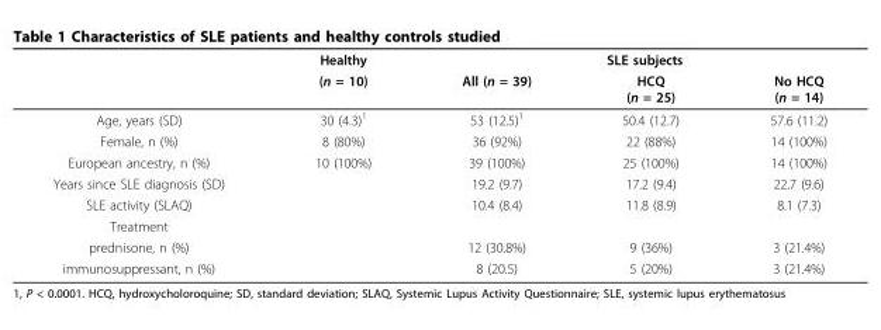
<table><thead><tr><td rowspan="2"></td><td rowspan="2">Healthy (n = 10)</td><td colspan="3">SLE subjects</td></tr><tr><td>All (n = 39)</td><td>HCQ (n = 25)</td><td>No HCQ (n = 14)</td></tr></thead><tbody><tr><td>Age, years (SD)</td><td>30 (4.3)<sup>1</sup></td><td>53 (12.5)<sup>1</sup></td><td>50.4 (12.7)</td><td>57.6 (11.2)</td></tr><tr><td>Female, n (%)</td><td>8 (80%)</td><td>36 (92%)</td><td>22 (88%)</td><td>14 (100%)</td></tr><tr><td>European ancestry, n (%)</td><td>10 (100%)</td><td>39 (100%)</td><td>25 (100%)</td><td>14 (100%)</td></tr><tr><td>Years since SLE diagnosis (SD)</td><td></td><td>19.2 (9.7)</td><td>17.2 (9.4)</td><td>22.7 (9.6)</td></tr><tr><td>SLE activity (SLAQ)</td><td></td><td>10.4 (8.4)</td><td>11.8 (8.9)</td><td>8.1 (7.3)</td></tr><tr><td colspan="5">Treatment</td></tr><tr><td>prednisone, n (%)</td><td></td><td>12 (30.8%)</td><td>9 (36%)</td><td>3 (21.4%)</td></tr><tr><td>immunosuppressant, n (%)</td><td></td><td>8 (20.5)</td><td>5 (20%)</td><td>3 (21.4%)</td></tr></tbody></table>